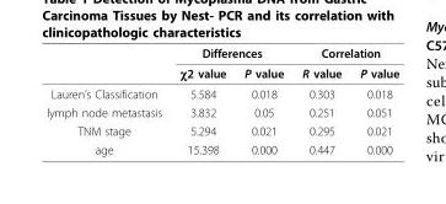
<table><thead><tr><td rowspan="2"></td><td colspan="2">Differences</td><td colspan="2">Correlation</td></tr><tr><td>χ2 value</td><td>P value</td><td>R value</td><td>P value</td></tr></thead><tbody><tr><td>Lauren’s Classification</td><td>5.584</td><td>0.018</td><td>0.303</td><td>0.018</td></tr><tr><td>lymph node metastasis</td><td>3.832</td><td>0.05</td><td>0.251</td><td>0.051</td></tr><tr><td>TNM stage</td><td>5.294</td><td>0.021</td><td>0.295</td><td>0.021</td></tr><tr><td>age</td><td>15.398</td><td>0.000</td><td>0.447</td><td>0.000</td></tr></tbody></table>